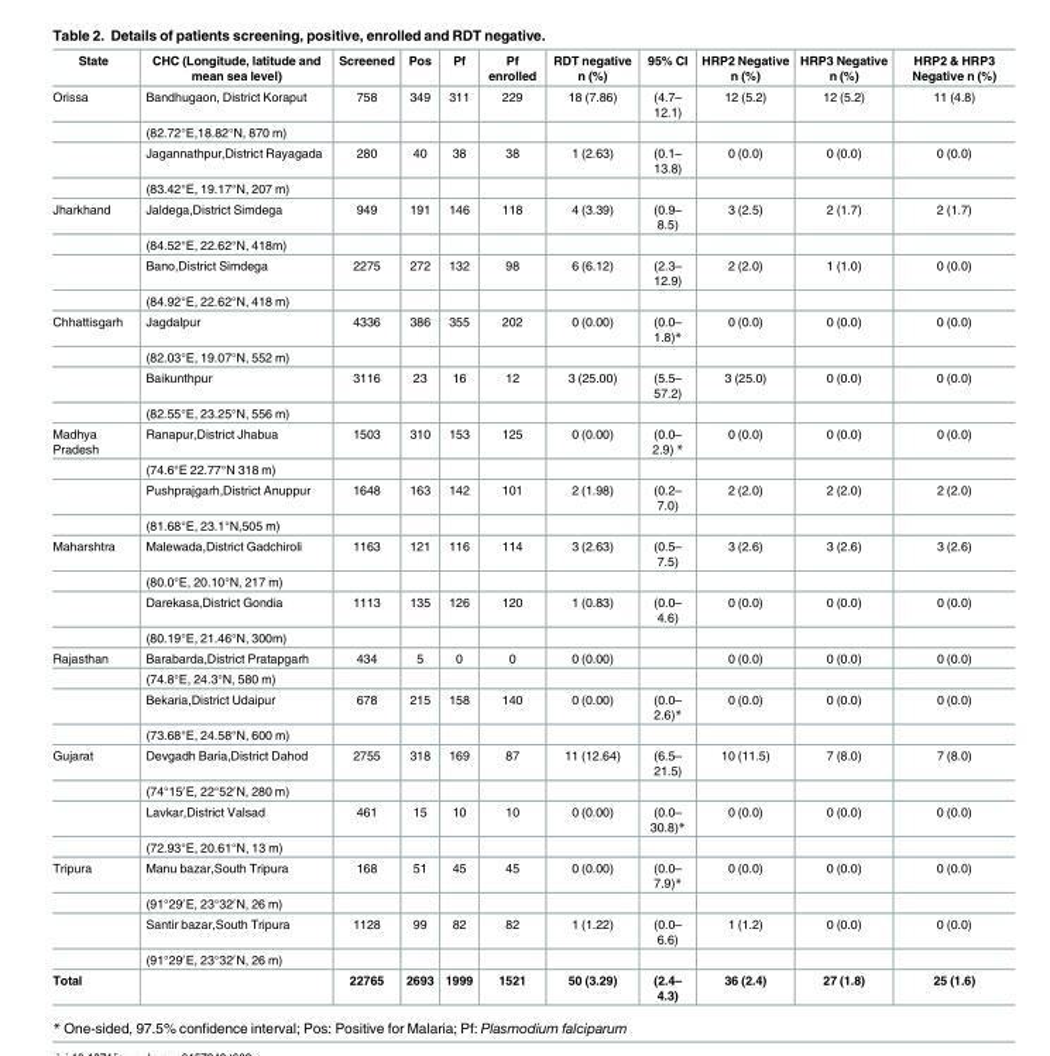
<table><thead><tr><td>State</td><td>CHC (Longitude, latitude and mean sea level)</td><td>Screened</td><td>Pos</td><td>Pf</td><td>Pf enrolled</td><td>RDT negative n (%)</td><td>95% CI</td><td>HRP2 Negative n (%)</td><td>HRP3 Negative n (%)</td><td>HRP2 &amp; HRP3 Negative n (%)</td></tr></thead><tbody><tr><td rowspan="4">Orissa</td><td>Bandhugaon, District Koraput</td><td>758</td><td>349</td><td>311</td><td>229</td><td>18 (7.86)</td><td>(4.7– 12.1)</td><td>12 (5.2)</td><td>12 (5.2)</td><td>11 (4.8)</td></tr><tr><td>(82.72°E,18.82°N, 870 m)</td><td></td><td></td><td></td><td></td><td></td><td></td><td></td><td></td><td></td></tr><tr><td>Jagannathpur,District Rayagada</td><td>280</td><td>40</td><td>38</td><td>38</td><td>1 (2.63)</td><td>(0.1– 13.8)</td><td>0 (0.0)</td><td>0 (0.0)</td><td>0 (0.0)</td></tr><tr><td>(83.42°E, 19.17°N, 207 m)</td><td></td><td></td><td></td><td></td><td></td><td></td><td></td><td></td><td></td></tr><tr><td rowspan="4">Jharkhand</td><td>Jaldega,District Simdega</td><td>949</td><td>191</td><td>146</td><td>118</td><td>4 (3.39)</td><td>(0.9– 8.5)</td><td>3 (2.5)</td><td>2 (1.7)</td><td>2 (1.7)</td></tr><tr><td>(84.52°E, 22.62°N, 418m)</td><td></td><td></td><td></td><td></td><td></td><td></td><td></td><td></td><td></td></tr><tr><td>Bano,District Simdega</td><td>2275</td><td>272</td><td>132</td><td>98</td><td>6 (6.12)</td><td>(2.3– 12.9)</td><td>2 (2.0)</td><td>1 (1.0)</td><td>0 (0.0)</td></tr><tr><td>(84.92°E, 22.62°N, 418 m)</td><td></td><td></td><td></td><td></td><td></td><td></td><td></td><td></td><td></td></tr><tr><td rowspan="4">Chhattisgarh</td><td>Jagdalpur</td><td>4336</td><td>386</td><td>355</td><td>202</td><td>0 (0.00)</td><td>(0.0– 1.8)*</td><td>0 (0.0)</td><td>0 (0.0)</td><td>0 (0.0)</td></tr><tr><td>(82.03°E, 19.07°N, 552 m)</td><td></td><td></td><td></td><td></td><td></td><td></td><td></td><td></td><td></td></tr><tr><td>Baikunthpur</td><td>3116</td><td>23</td><td>16</td><td>12</td><td>3 (25.00)</td><td>(5.5– 57.2)</td><td>3 (25.0)</td><td>0 (0.0)</td><td>0 (0.0)</td></tr><tr><td>(82.55°E, 23.25°N, 556 m)</td><td></td><td></td><td></td><td></td><td></td><td></td><td></td><td></td><td></td></tr><tr><td rowspan="4">Madhya Pradesh</td><td>Ranapur,District Jhabua</td><td>1503</td><td>310</td><td>153</td><td>125</td><td>0 (0.00)</td><td>(0.0– 2.9) *</td><td>0 (0.0)</td><td>0 (0.0)</td><td>0 (0.0)</td></tr><tr><td>(74.6°E 22.77°N 318 m)</td><td></td><td></td><td></td><td></td><td></td><td></td><td></td><td></td><td></td></tr><tr><td>Pushprajgarh,District Anuppur</td><td>1648</td><td>163</td><td>142</td><td>101</td><td>2 (1.98)</td><td>(0.2– 7.0)</td><td>2 (2.0)</td><td>2 (2.0)</td><td>2 (2.0)</td></tr><tr><td>(81.68°E, 23.1°N,505 m)</td><td></td><td></td><td></td><td></td><td></td><td></td><td></td><td></td><td></td></tr><tr><td rowspan="4">Maharshtra</td><td>Malewada,District Gadchiroli</td><td>1163</td><td>121</td><td>116</td><td>114</td><td>3 (2.63)</td><td>(0.5– 7.5)</td><td>3 (2.6)</td><td>3 (2.6)</td><td>3 (2.6)</td></tr><tr><td>(80.0°E, 20.10°N, 217 m)</td><td></td><td></td><td></td><td></td><td></td><td></td><td></td><td></td><td></td></tr><tr><td>Darekasa,District Gondia</td><td>1113</td><td>135</td><td>126</td><td>120</td><td>1 (0.83)</td><td>(0.0– 4.6)</td><td>0 (0.0)</td><td>0 (0.0)</td><td>0 (0.0)</td></tr><tr><td>(80.19°E, 21.46°N, 300m)</td><td></td><td></td><td></td><td></td><td></td><td></td><td></td><td></td><td></td></tr><tr><td rowspan="4">Rajasthan</td><td>Barabarda,District Pratapgarh</td><td>434</td><td>5</td><td>0</td><td>0</td><td>0 (0.00)</td><td></td><td>0 (0.0)</td><td>0 (0.0)</td><td>0 (0.0)</td></tr><tr><td>(74.8°E, 24.3°N, 580 m)</td><td></td><td></td><td></td><td></td><td></td><td></td><td></td><td></td><td></td></tr><tr><td>Bekaria,District Udaipur</td><td>678</td><td>215</td><td>158</td><td>140</td><td>0 (0.00)</td><td>(0.0– 2.6)*</td><td>0 (0.0)</td><td>0 (0.0)</td><td>0 (0.0)</td></tr><tr><td>(73.68°E, 24.58°N, 600 m)</td><td></td><td></td><td></td><td></td><td></td><td></td><td></td><td></td><td></td></tr><tr><td rowspan="4">Gujarat</td><td>Devgadh Baria,District Dahod</td><td>2755</td><td>318</td><td>169</td><td>87</td><td>11 (12.64)</td><td>(6.5– 21.5)</td><td>10 (11.5)</td><td>7 (8.0)</td><td>7 (8.0)</td></tr><tr><td>(74°15′E, 22°52′N, 280 m)</td><td></td><td></td><td></td><td></td><td></td><td></td><td></td><td></td><td></td></tr><tr><td>Lavkar,District Valsad</td><td>461</td><td>15</td><td>10</td><td>10</td><td>0 (0.00)</td><td>(0.0– 30.8)*</td><td>0 (0.0)</td><td>0 (0.0)</td><td>0 (0.0)</td></tr><tr><td>(72.93°E, 20.61°N, 13 m)</td><td></td><td></td><td></td><td></td><td></td><td></td><td></td><td></td><td></td></tr><tr><td rowspan="4">Tripura</td><td>Manu bazar,South Tripura</td><td>168</td><td>51</td><td>45</td><td>45</td><td>0 (0.00)</td><td>(0.0– 7.9)*</td><td>0 (0.0)</td><td>0 (0.0)</td><td>0 (0.0)</td></tr><tr><td>(91°29′E, 23°32′N, 26 m)</td><td></td><td></td><td></td><td></td><td></td><td></td><td></td><td></td><td></td></tr><tr><td>Santir bazar,South Tripura</td><td>1128</td><td>99</td><td>82</td><td>82</td><td>1 (1.22)</td><td>(0.0– 6.6)</td><td>1 (1.2)</td><td>0 (0.0)</td><td>0 (0.0)</td></tr><tr><td>(91°29′E, 23°32′N, 26 m)</td><td></td><td></td><td></td><td></td><td></td><td></td><td></td><td></td><td></td></tr><tr><td>Total</td><td></td><td>22765</td><td>2693</td><td>1999</td><td>1521</td><td>50 (3.29)</td><td>(2.4– 4.3)</td><td>36 (2.4)</td><td>27 (1.8)</td><td>25 (1.6)</td></tr></tbody></table>